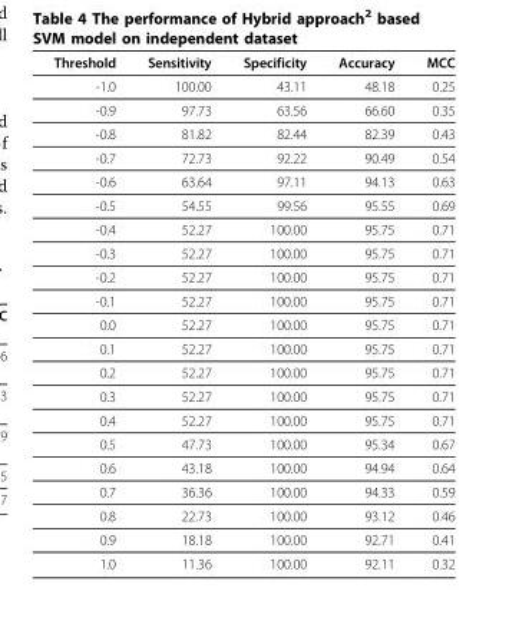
<table><thead><tr><td>Threshold</td><td>Sensitivity</td><td>Specificity</td><td>Accuracy</td><td>MCC</td></tr></thead><tbody><tr><td>-1.0</td><td>100.00</td><td>43.11</td><td>48.18</td><td>0.25</td></tr><tr><td>-0.9</td><td>97.73</td><td>63.56</td><td>66.60</td><td>0.35</td></tr><tr><td>-0.8</td><td>81.82</td><td>82.44</td><td>82.39</td><td>0.43</td></tr><tr><td>-0.7</td><td>72.73</td><td>92.22</td><td>90.49</td><td>0.54</td></tr><tr><td>-0.6</td><td>63.64</td><td>97.11</td><td>94.13</td><td>0.63</td></tr><tr><td>-0.5</td><td>54.55</td><td>99.56</td><td>95.55</td><td>0.69</td></tr><tr><td>-0.4</td><td>52.27</td><td>100.00</td><td>95.75</td><td>0.71</td></tr><tr><td>-0.3</td><td>52.27</td><td>100.00</td><td>95.75</td><td>0.71</td></tr><tr><td>-0.2</td><td>52.27</td><td>100.00</td><td>95.75</td><td>0.71</td></tr><tr><td>-0.1</td><td>52.27</td><td>100.00</td><td>95.75</td><td>0.71</td></tr><tr><td>0.0</td><td>52.27</td><td>100.00</td><td>95.75</td><td>0.71</td></tr><tr><td>0.1</td><td>52.27</td><td>100.00</td><td>95.75</td><td>0.71</td></tr><tr><td>0.2</td><td>52.27</td><td>100.00</td><td>95.75</td><td>0.71</td></tr><tr><td>0.3</td><td>52.27</td><td>100.00</td><td>95.75</td><td>0.71</td></tr><tr><td>0.4</td><td>52.27</td><td>100.00</td><td>95.75</td><td>0.71</td></tr><tr><td>0.5</td><td>47.73</td><td>100.00</td><td>95.34</td><td>0.67</td></tr><tr><td>0.6</td><td>43.18</td><td>100.00</td><td>94.94</td><td>0.64</td></tr><tr><td>0.7</td><td>36.36</td><td>100.00</td><td>94.33</td><td>0.59</td></tr><tr><td>0.8</td><td>22.73</td><td>100.00</td><td>93.12</td><td>0.46</td></tr><tr><td>0.9</td><td>18.18</td><td>100.00</td><td>92.71</td><td>0.41</td></tr><tr><td>1.0</td><td>11.36</td><td>100.00</td><td>92.11</td><td>0.32</td></tr></tbody></table>